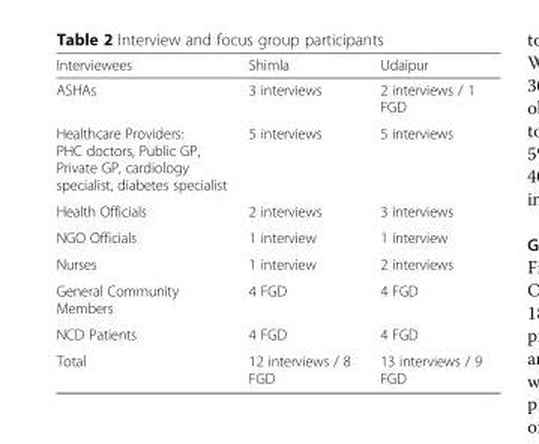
<table><thead><tr><td>Interviewees</td><td>Shimla</td><td>Udaipur</td></tr></thead><tbody><tr><td>ASHAs</td><td>3 interviews</td><td>2 interviews / 1 FGD</td></tr><tr><td>Healthcare Providers: PHC doctors, Public GP, Private GP, cardiology specialist, diabetes specialist</td><td>5 interviews</td><td>5 interviews</td></tr><tr><td>Health Officials</td><td>2 interviews</td><td>3 interviews</td></tr><tr><td>NGO Officials</td><td>1 interview</td><td>1 interview</td></tr><tr><td>Nurses</td><td>1 interview</td><td>2 interviews</td></tr><tr><td>General Community Members</td><td>4 FGD</td><td>4 FGD</td></tr><tr><td>NCD Patients</td><td>4 FGD</td><td>4 FGD</td></tr><tr><td>Total</td><td>12 interviews / 8 FGD</td><td>13 interviews / 9 FGD</td></tr></tbody></table>